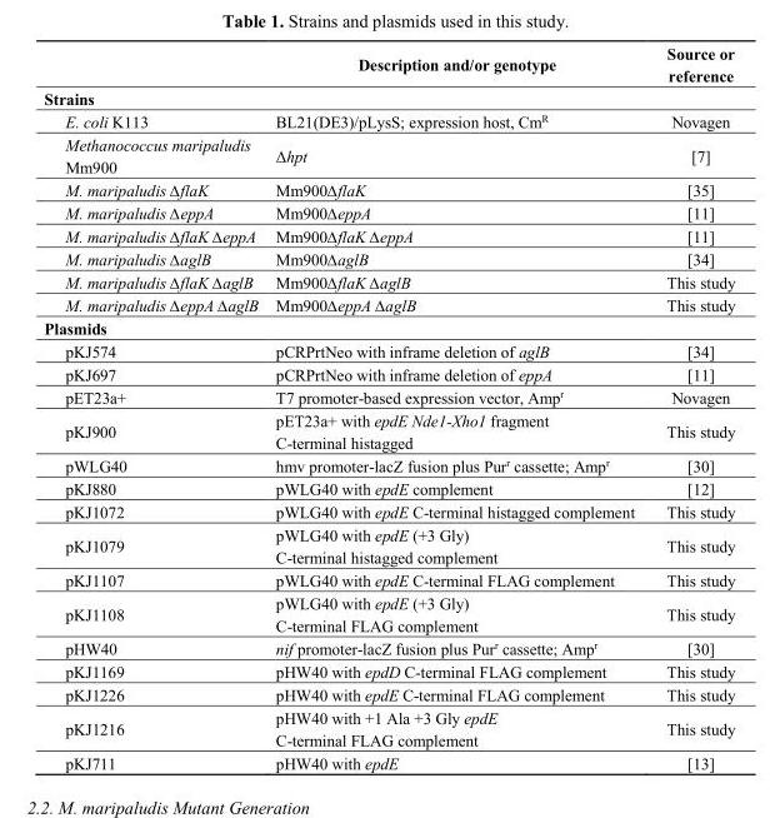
<table><thead><tr><td></td><td>Description and/or genotype</td><td>Source or reference</td></tr></thead><tbody><tr><td colspan="3">Strains</td></tr><tr><td>E. coli K113</td><td>BL21(DE3)/pLysS; expression host, Cm<sup>R</sup></td><td>Novagen</td></tr><tr><td>Methanococcus maripaludis Mm900</td><td>Δhpt</td><td>[7]</td></tr><tr><td>M. maripaludis ∆flaK</td><td>Mm900∆flaK</td><td>[35]</td></tr><tr><td>M. maripaludis ∆eppA</td><td>Mm900∆eppA</td><td>[11]</td></tr><tr><td>M. maripaludis ∆flaK ∆eppA</td><td>Mm900∆flaK ∆eppA</td><td>[11]</td></tr><tr><td>M. maripaludis ∆aglB</td><td>Mm900∆aglB</td><td>[34]</td></tr><tr><td>M. maripaludis ∆flaK ∆aglB</td><td>Mm900∆flaK ∆aglB</td><td>This study</td></tr><tr><td>M. maripaludis ∆eppA ∆aglB</td><td>Mm900∆eppA ∆aglB</td><td>This study</td></tr><tr><td colspan="3">Plasmids</td></tr><tr><td>pKJ574</td><td>pCRPrtNeo with inframe deletion of aglB</td><td>[34]</td></tr><tr><td>pKJ697</td><td>pCRPrtNeo with inframe deletion of eppA</td><td>[11]</td></tr><tr><td>pET23a+</td><td>T7 promoter-based expression vector, Amp<sup>r</sup></td><td>Novagen</td></tr><tr><td>pKJ900</td><td>pET23a+ with epdE Nde1-Xho1 fragment C-terminal histagged</td><td>This study</td></tr><tr><td>pWLG40</td><td>hmv promoter-lacZ fusion plus Pur<sup>r</sup> cassette; Amp<sup>r</sup></td><td>[30]</td></tr><tr><td>pKJ880</td><td>pWLG40 with epdE complement</td><td>[12]</td></tr><tr><td>pKJ1072</td><td>pWLG40 with epdE C-terminal histagged complement</td><td>This study</td></tr><tr><td>pKJ1079</td><td>pWLG40 with epdE (+3 Gly) C-terminal histagged complement</td><td>This study</td></tr><tr><td>pKJ1107</td><td>pWLG40 with epdE C-terminal FLAG complement</td><td>This study</td></tr><tr><td>pKJ1108</td><td>pWLG40 with epdE (+3 Gly) C-terminal FLAG complement</td><td>This study</td></tr><tr><td>pHW40</td><td>nif promoter-lacZ fusion plus Pur<sup>r</sup> cassette; Amp<sup>r</sup></td><td>[30]</td></tr><tr><td>pKJ1169</td><td>pHW40 with epdD C-terminal FLAG complement</td><td>This study</td></tr><tr><td>pKJ1226</td><td>pHW40 with epdE C-terminal FLAG complement</td><td>This study</td></tr><tr><td>pKJ1216</td><td>pHW40 with +1 Ala +3 Gly epdE C-terminal FLAG complement</td><td>This study</td></tr><tr><td>pKJ711</td><td>pHW40 with epdE</td><td>[13]</td></tr></tbody></table>